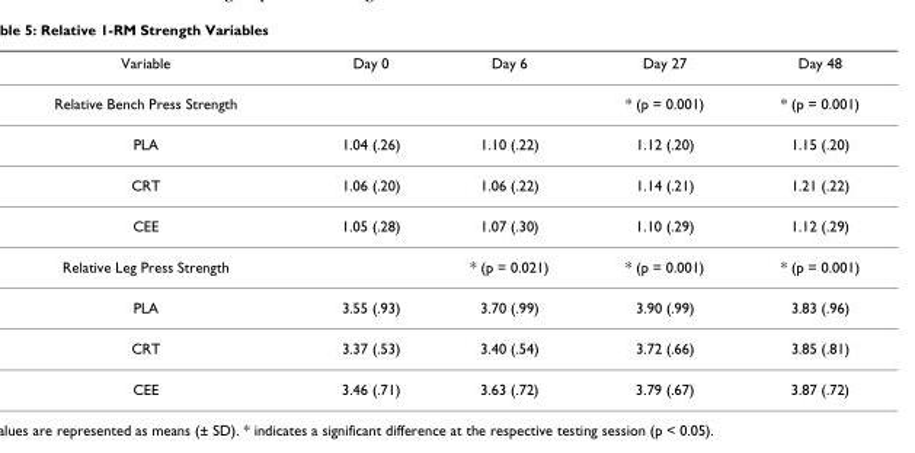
<table><thead><tr><td>Variable</td><td>Day 0</td><td>Day 6</td><td>Day 27</td><td>Day 48</td></tr></thead><tbody><tr><td>Relative Bench Press Strength</td><td></td><td></td><td>* (p = 0.001)</td><td>* (p = 0.001)</td></tr><tr><td>PLA</td><td>1.04 (.26)</td><td>1.10 (.22)</td><td>1.12 (.20)</td><td>1.15 (.20)</td></tr><tr><td>CRT</td><td>1.06 (.20)</td><td>1.06 (.22)</td><td>1.14 (.21)</td><td>1.21 (.22)</td></tr><tr><td>CEE</td><td>1.05 (.28)</td><td>1.07 (.30)</td><td>1.10 (.29)</td><td>1.12 (.29)</td></tr><tr><td>Relative Leg Press Strength</td><td></td><td>* (p = 0.021)</td><td>* (p = 0.001)</td><td>* (p = 0.001)</td></tr><tr><td>PLA</td><td>3.55 (.93)</td><td>3.70 (.99)</td><td>3.90 (.99)</td><td>3.83 (.96)</td></tr><tr><td>CRT</td><td>3.37 (.53)</td><td>3.40 (.54)</td><td>3.72 (.66)</td><td>3.85 (.81)</td></tr><tr><td>CEE</td><td>3.46 (.71)</td><td>3.63 (.72)</td><td>3.79 (.67)</td><td>3.87 (.72)</td></tr></tbody></table>